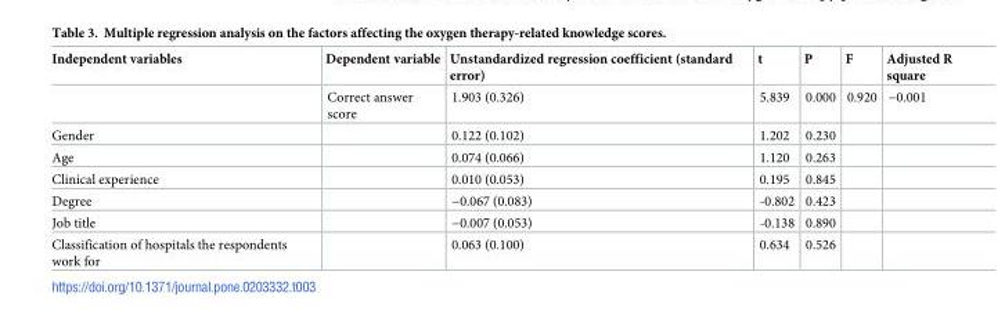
<table><thead><tr><td>Independent variables</td><td>Dependent variable</td><td>Unstandardized regression coefficient (standard error)</td><td>t</td><td>P</td><td>F</td><td>Adjusted R square</td></tr></thead><tbody><tr><td></td><td>Correct answer score</td><td>1.903 (0.326)</td><td>5.839</td><td>0.000</td><td>0.920</td><td>−0.001</td></tr><tr><td>Gender</td><td></td><td>0.122 (0.102)</td><td>1.202</td><td>0.230</td><td></td><td></td></tr><tr><td>Age</td><td></td><td>0.074 (0.066)</td><td>1.120</td><td>0.263</td><td></td><td></td></tr><tr><td>Clinical experience</td><td></td><td>0.010 (0.053)</td><td>0.195</td><td>0.845</td><td></td><td></td></tr><tr><td>Degree</td><td></td><td>−0.067 (0.083)</td><td>-0.802</td><td>0.423</td><td></td><td></td></tr><tr><td>Job title</td><td></td><td>−0.007 (0.053)</td><td>-0.138</td><td>0.890</td><td></td><td></td></tr><tr><td>Classification of hospitals the respondents work for</td><td></td><td>0.063 (0.100)</td><td>0.634</td><td>0.526</td><td></td><td></td></tr></tbody></table>